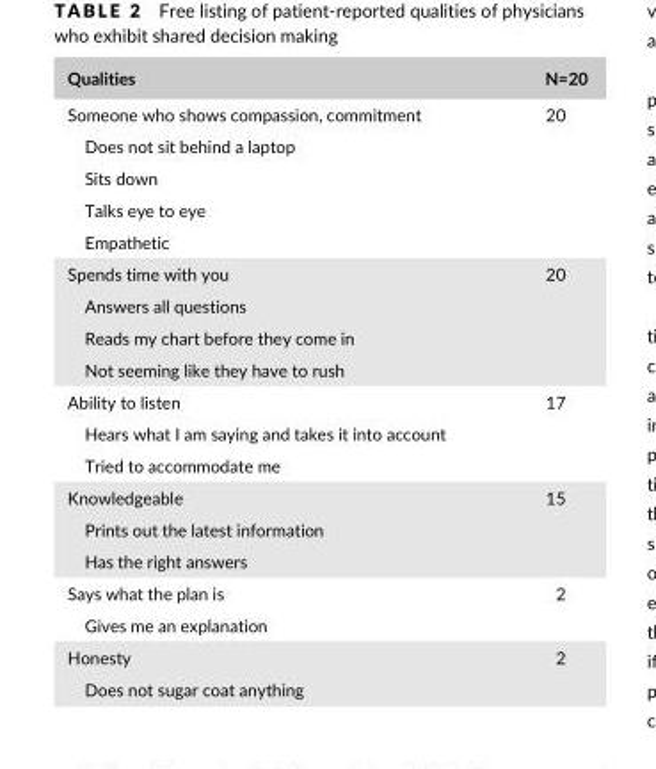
<table><thead><tr><td>Qualities</td><td>N=20</td></tr></thead><tbody><tr><td>Someone who shows compassion, commitment</td><td rowspan="5">20</td></tr><tr><td>Does not sit behind a laptop</td></tr><tr><td>Sits down</td></tr><tr><td>Talks eye to eye</td></tr><tr><td>Empathetic</td></tr><tr><td>Spends time with you</td><td rowspan="4">20</td></tr><tr><td>Answers all questions</td></tr><tr><td>Reads my chart before they come in</td></tr><tr><td>Not seeming like they have to rush</td></tr><tr><td>Ability to listen</td><td rowspan="3">17</td></tr><tr><td>Hears what I am saying and takes it into account</td></tr><tr><td>Tried to accommodate me</td></tr><tr><td>Knowledgeable</td><td rowspan="3">15</td></tr><tr><td>Prints out the latest information</td></tr><tr><td>Has the right answers</td></tr><tr><td>Says what the plan is</td><td rowspan="2">2</td></tr><tr><td>Gives me an explanation</td></tr><tr><td>Honesty</td><td rowspan="2">2</td></tr><tr><td>Does not sugar coat anything</td></tr></tbody></table>